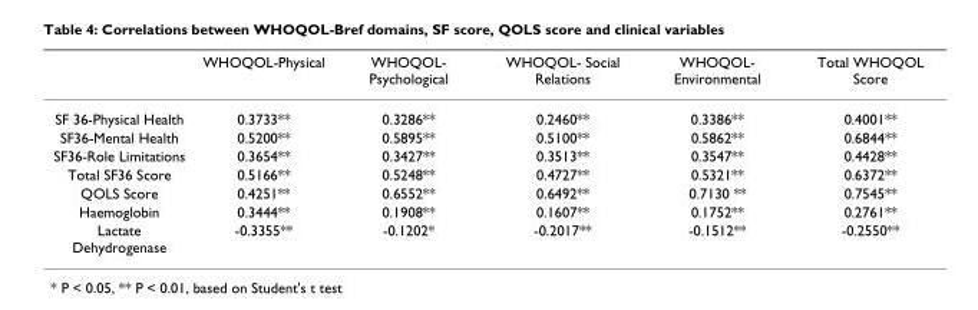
<table><thead><tr><td></td><td>WHOQOL-Physical</td><td>WHOQOL- Psychological</td><td>WHOQOL- Social Relations</td><td>WHOQOL- Environmental</td><td>Total WHOQOL Score</td></tr></thead><tbody><tr><td>SF 36-Physical Health</td><td>0.3733**</td><td>0.3286**</td><td>0.2460**</td><td>0.3386**</td><td>0.4001**</td></tr><tr><td>SF36-Mental Health</td><td>0.5200**</td><td>0.5895**</td><td>0.5100**</td><td>0.5862**</td><td>0.6844**</td></tr><tr><td>SF36-Role Limitations</td><td>0.3654**</td><td>0.3427**</td><td>0.3513**</td><td>0.3547**</td><td>0.4428**</td></tr><tr><td>Total SF36 Score</td><td>0.5166**</td><td>0.5248**</td><td>0.4727**</td><td>0.5321**</td><td>0.6372**</td></tr><tr><td>QOLS Score</td><td>0.4251**</td><td>0.6552**</td><td>0.6492**</td><td>0.7130 **</td><td>0.7545**</td></tr><tr><td>Haemoglobin</td><td>0.3444**</td><td>0.1908**</td><td>0.1607**</td><td>0.1752**</td><td>0.2761**</td></tr><tr><td>Lactate Dehydrogenase</td><td>-0.3355**</td><td>-0.1202*</td><td>-0.2017**</td><td>-0.1512**</td><td>-0.2550**</td></tr></tbody></table>